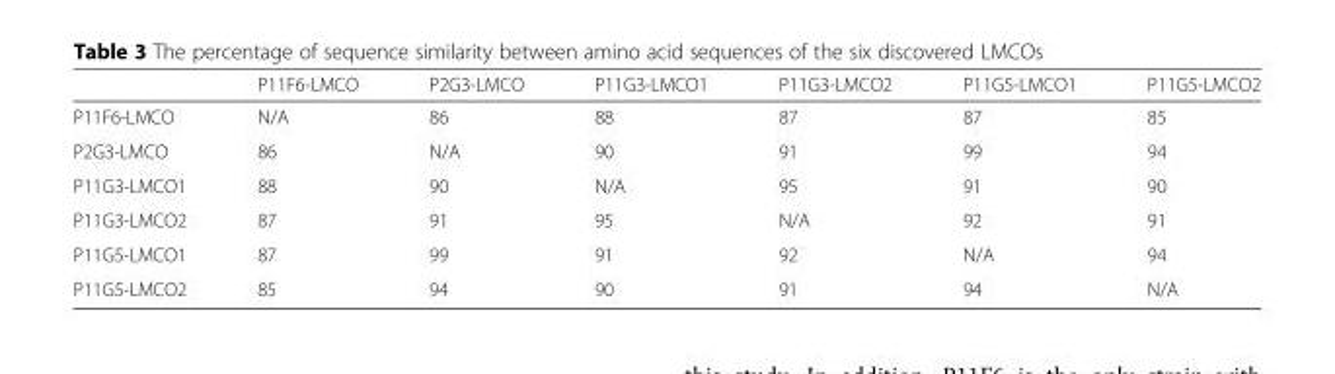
<table><thead><tr><td></td><td>P11F6-LMCO</td><td>P2G3-LMCO</td><td>P11G3-LMCO1</td><td>P11G3-LMCO2</td><td>P11G5-LMCO1</td><td>P11G5-LMCO2</td></tr></thead><tbody><tr><td>P11F6-LMCO</td><td>N/A</td><td>86</td><td>88</td><td>87</td><td>87</td><td>85</td></tr><tr><td>P2G3-LMCO</td><td>86</td><td>N/A</td><td>90</td><td>91</td><td>99</td><td>94</td></tr><tr><td>P11G3-LMCO1</td><td>88</td><td>90</td><td>N/A</td><td>95</td><td>91</td><td>90</td></tr><tr><td>P11G3-LMCO2</td><td>87</td><td>91</td><td>95</td><td>N/A</td><td>92</td><td>91</td></tr><tr><td>P11G5-LMCO1</td><td>87</td><td>99</td><td>91</td><td>92</td><td>N/A</td><td>94</td></tr><tr><td>P11G5-LMCO2</td><td>85</td><td>94</td><td>90</td><td>91</td><td>94</td><td>N/A</td></tr></tbody></table>